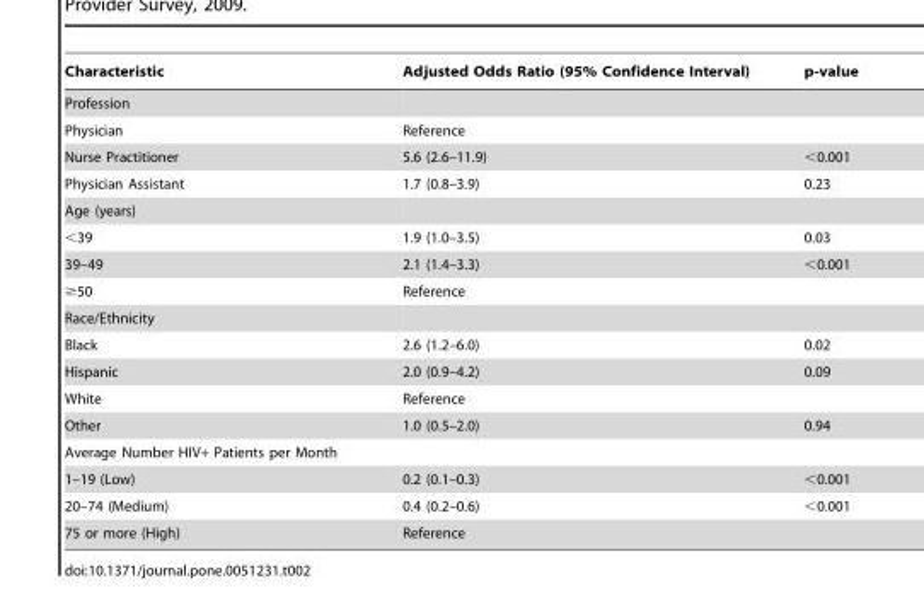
<table><thead><tr><td>Characteristic</td><td>Adjusted Odds Ratio (95% Confidence Interval)</td><td>p-value</td></tr></thead><tbody><tr><td colspan="3">Profession</td></tr><tr><td>Physician</td><td>Reference</td><td></td></tr><tr><td>Nurse Practitioner</td><td>5.6 (2.6–11.9)</td><td>&lt;0.001</td></tr><tr><td>Physician Assistant</td><td>1.7 (0.8–3.9)</td><td>0.23</td></tr><tr><td colspan="3">Age (years)</td></tr><tr><td>&lt;39</td><td>1.9 (1.0–3.5)</td><td>0.03</td></tr><tr><td>39–49</td><td>2.1 (1.4–3.3)</td><td>&lt;0.001</td></tr><tr><td>≥50</td><td>Reference</td><td></td></tr><tr><td colspan="3">Race/Ethnicity</td></tr><tr><td>Black</td><td>2.6 (1.2–6.0)</td><td>0.02</td></tr><tr><td>Hispanic</td><td>2.0 (0.9–4.2)</td><td>0.09</td></tr><tr><td>White</td><td>Reference</td><td></td></tr><tr><td>Other</td><td>1.0 (0.5–2.0)</td><td>0.94</td></tr><tr><td colspan="3">Average Number HIV+ Patients per Month</td></tr><tr><td>1–19 (Low)</td><td>0.2 (0.1–0.3)</td><td>&lt;0.001</td></tr><tr><td>20–74 (Medium)</td><td>0.4 (0.2–0.6)</td><td>&lt;0.001</td></tr><tr><td>75 or more (High)</td><td>Reference</td><td></td></tr></tbody></table>